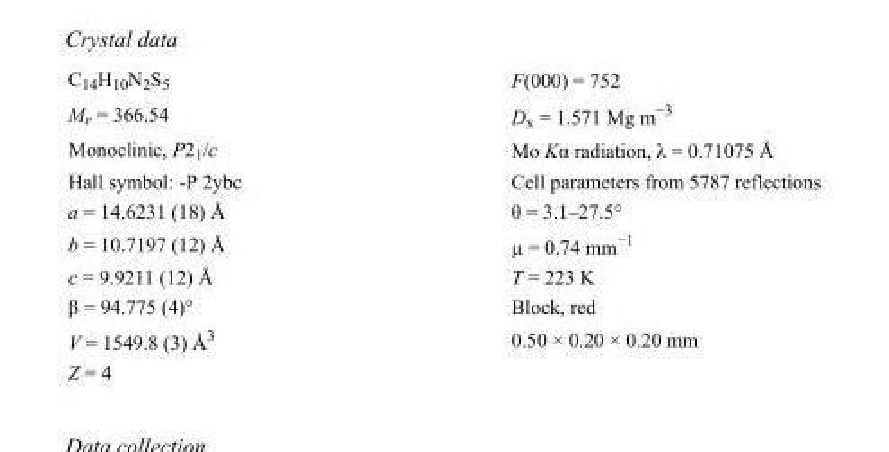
<table><tbody><tr><td>C<sub>14</sub>H<sub>10</sub>N<sub>2</sub>S<sub>5</sub></td><td>F(000) = 752</td></tr><tr><td>M<sub>r</sub> = 366.54</td><td>D<sub>x</sub> = 1.571 Mg m<sup>−3</sup></td></tr><tr><td>Monoclinic, P2<sub>1</sub>/c</td><td>Mo Kα radiation, λ = 0.71075 Å</td></tr><tr><td>Hall symbol: -P 2ybc</td><td>Cell parameters from 5787 reflections</td></tr><tr><td>a = 14.6231 (18) Å</td><td>θ = 3.1–27.5°</td></tr><tr><td>b = 10.7197 (12) Å</td><td>µ = 0.74 mm<sup>−1</sup></td></tr><tr><td>c = 9.9211 (12) Å</td><td>T = 223 K</td></tr><tr><td>β = 94.775 (4)°</td><td>Block, red</td></tr><tr><td>V = 1549.8 (3) Å<sup>3</sup></td><td>0.50 × 0.20 × 0.20 mm</td></tr><tr><td>Z = 4</td><td></td></tr></tbody></table>